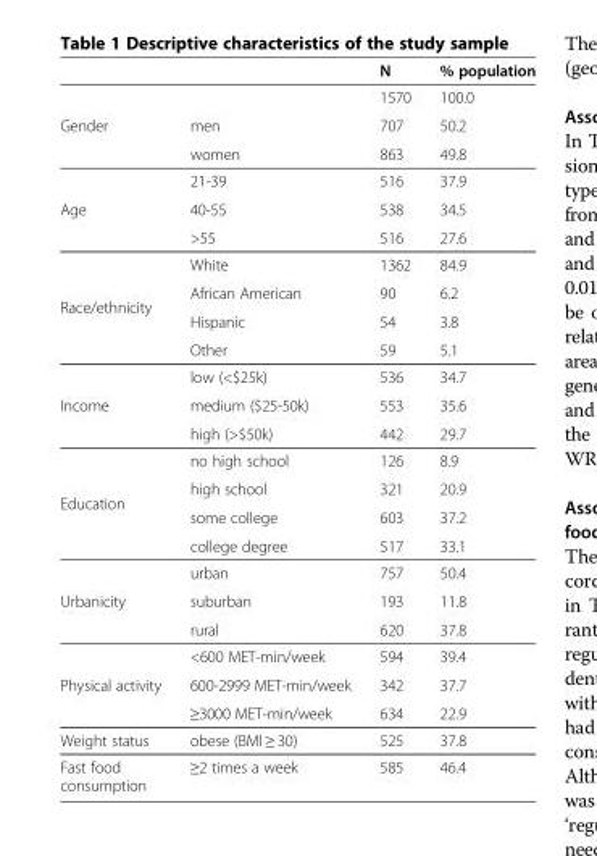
<table><thead><tr><td></td><td></td><td>N</td><td>% population</td></tr></thead><tbody><tr><td></td><td></td><td>1570</td><td>100.0</td></tr><tr><td rowspan="2">Gender</td><td>men</td><td>707</td><td>50.2</td></tr><tr><td>women</td><td>863</td><td>49.8</td></tr><tr><td rowspan="3">Age</td><td>21-39</td><td>516</td><td>37.9</td></tr><tr><td>40-55</td><td>538</td><td>34.5</td></tr><tr><td>&gt;55</td><td>516</td><td>27.6</td></tr><tr><td rowspan="4">Race/ethnicity</td><td>White</td><td>1362</td><td>84.9</td></tr><tr><td>African American</td><td>90</td><td>6.2</td></tr><tr><td>Hispanic</td><td>54</td><td>3.8</td></tr><tr><td>Other</td><td>59</td><td>5.1</td></tr><tr><td rowspan="3">Income</td><td>low (&lt;$25k)</td><td>536</td><td>34.7</td></tr><tr><td>medium ($25-50k)</td><td>553</td><td>35.6</td></tr><tr><td>high (&gt;$50k)</td><td>442</td><td>29.7</td></tr><tr><td rowspan="4">Education</td><td>no high school</td><td>126</td><td>8.9</td></tr><tr><td>high school</td><td>321</td><td>20.9</td></tr><tr><td>some college</td><td>603</td><td>37.2</td></tr><tr><td>college degree</td><td>517</td><td>33.1</td></tr><tr><td rowspan="3">Urbanicity</td><td>urban</td><td>757</td><td>50.4</td></tr><tr><td>suburban</td><td>193</td><td>11.8</td></tr><tr><td>rural</td><td>620</td><td>37.8</td></tr><tr><td rowspan="3">Physical activity</td><td>&lt;600 MET-min/week</td><td>594</td><td>39.4</td></tr><tr><td>600-2999 MET-min/week</td><td>342</td><td>37.7</td></tr><tr><td>≥3000 MET-min/week</td><td>634</td><td>22.9</td></tr><tr><td>Weight status</td><td>obese (BMI ≥ 30)</td><td>525</td><td>37.8</td></tr><tr><td>Fast food consumption</td><td>≥2 times a week</td><td>585</td><td>46.4</td></tr></tbody></table>